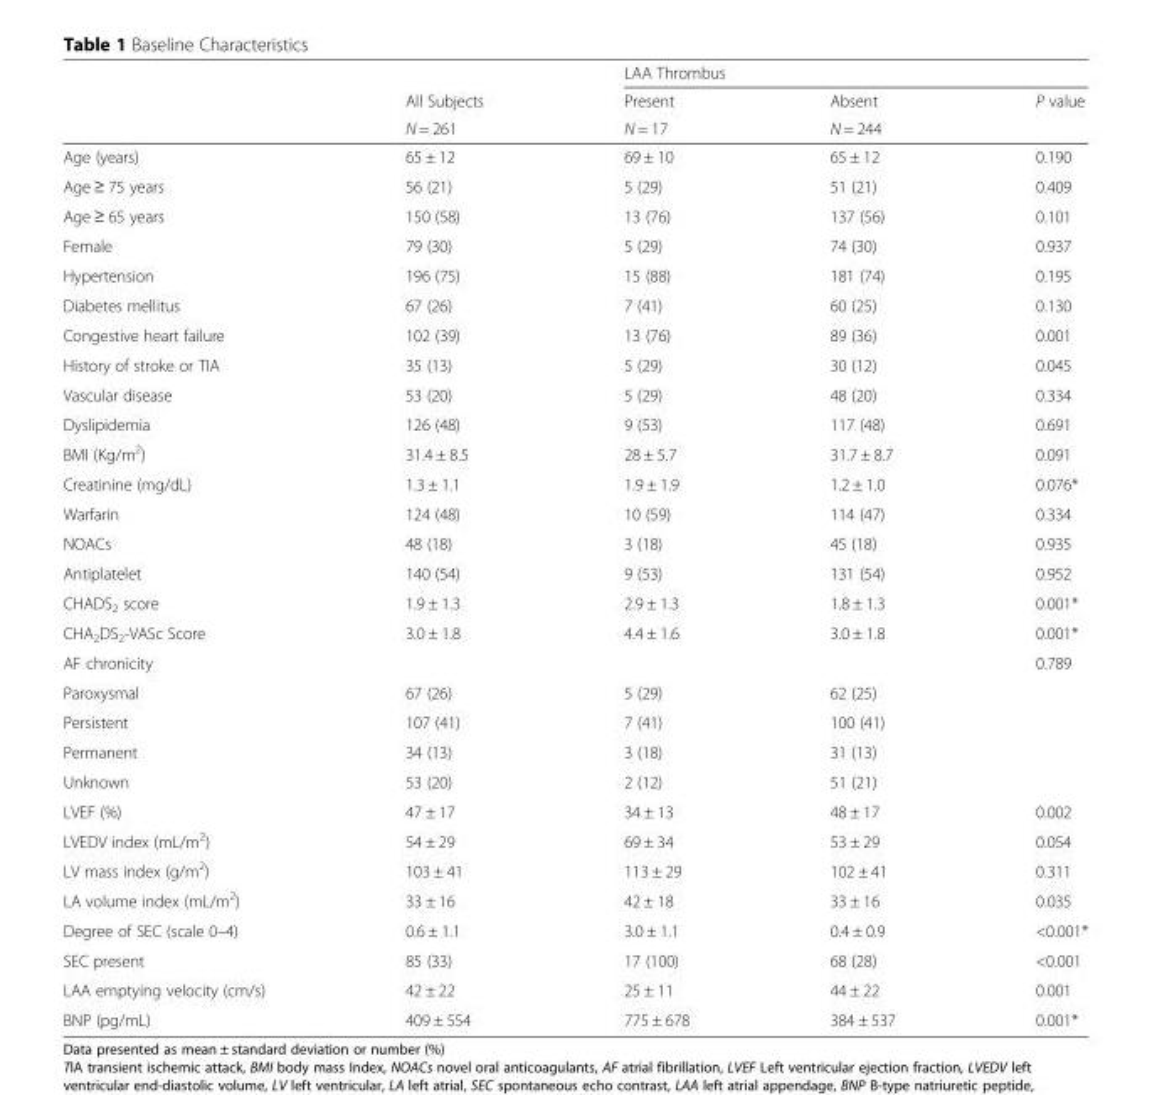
<table><thead><tr><td rowspan="3"></td><td rowspan="3">All Subjects N = 261</td><td colspan="3">LAA Thrombus</td></tr><tr><td rowspan="2">Present N = 17</td><td rowspan="2">Absent N = 244</td><td rowspan="2">P value</td></tr><tr></tr></thead><tbody><tr><td>Age (years)</td><td>65 ± 12</td><td>69 ± 10</td><td>65 ± 12</td><td>0.190</td></tr><tr><td>Age ≥ 75 years</td><td>56 (21)</td><td>5 (29)</td><td>51 (21)</td><td>0.409</td></tr><tr><td>Age ≥ 65 years</td><td>150 (58)</td><td>13 (76)</td><td>137 (56)</td><td>0.101</td></tr><tr><td>Female</td><td>79 (30)</td><td>5 (29)</td><td>74 (30)</td><td>0.937</td></tr><tr><td>Hypertension</td><td>196 (75)</td><td>15 (88)</td><td>181 (74)</td><td>0.195</td></tr><tr><td>Diabetes mellitus</td><td>67 (26)</td><td>7 (41)</td><td>60 (25)</td><td>0.130</td></tr><tr><td>Congestive heart failure</td><td>102 (39)</td><td>13 (76)</td><td>89 (36)</td><td>0.001</td></tr><tr><td>History of stroke or TIA</td><td>35 (13)</td><td>5 (29)</td><td>30 (12)</td><td>0.045</td></tr><tr><td>Vascular disease</td><td>53 (20)</td><td>5 (29)</td><td>48 (20)</td><td>0.334</td></tr><tr><td>Dyslipidemia</td><td>126 (48)</td><td>9 (53)</td><td>117 (48)</td><td>0.691</td></tr><tr><td>BMI (Kg/m<sup>2</sup>)</td><td>31.4 ± 8.5</td><td>28 ± 5.7</td><td>31.7 ± 8.7</td><td>0.091</td></tr><tr><td>Creatinine (mg/dL)</td><td>1.3 ± 1.1</td><td>1.9 ± 1.9</td><td>1.2 ± 1.0</td><td>0.076*</td></tr><tr><td>Warfarin</td><td>124 (48)</td><td>10 (59)</td><td>114 (47)</td><td>0.334</td></tr><tr><td>NOACs</td><td>48 (18)</td><td>3 (18)</td><td>45 (18)</td><td>0.935</td></tr><tr><td>Antiplatelet</td><td>140 (54)</td><td>9 (53)</td><td>131 (54)</td><td>0.952</td></tr><tr><td>CHADS<sub>2</sub> score</td><td>1.9 ± 1.3</td><td>2.9 ± 1.3</td><td>1.8 ± 1.3</td><td>0.001*</td></tr><tr><td>CHA<sub>2</sub>DS<sub>2</sub>-VASc Score</td><td>3.0 ± 1.8</td><td>4.4 ± 1.6</td><td>3.0 ± 1.8</td><td>0.001*</td></tr><tr><td>AF chronicity</td><td></td><td></td><td></td><td>0.789</td></tr><tr><td>Paroxysmal</td><td>67 (26)</td><td>5 (29)</td><td>62 (25)</td><td></td></tr><tr><td>Persistent</td><td>107 (41)</td><td>7 (41)</td><td>100 (41)</td><td></td></tr><tr><td>Permanent</td><td>34 (13)</td><td>3 (18)</td><td>31 (13)</td><td></td></tr><tr><td>Unknown</td><td>53 (20)</td><td>2 (12)</td><td>51 (21)</td><td></td></tr><tr><td>LVEF (%)</td><td>47 ± 17</td><td>34 ± 13</td><td>48 ± 17</td><td>0.002</td></tr><tr><td>LVEDV index (mL/m<sup>2</sup>)</td><td>54 ± 29</td><td>69 ± 34</td><td>53 ± 29</td><td>0.054</td></tr><tr><td>LV mass index (g/m<sup>2</sup>)</td><td>103 ± 41</td><td>113 ± 29</td><td>102 ± 41</td><td>0.311</td></tr><tr><td>LA volume index (mL/m<sup>2</sup>)</td><td>33 ± 16</td><td>42 ± 18</td><td>33 ± 16</td><td>0.035</td></tr><tr><td>Degree of SEC (scale 0–4)</td><td>0.6 ± 1.1</td><td>3.0 ± 1.1</td><td>0.4 ± 0.9</td><td>&lt;0.001*</td></tr><tr><td>SEC present</td><td>85 (33)</td><td>17 (100)</td><td>68 (28)</td><td>&lt;0.001</td></tr><tr><td>LAA emptying velocity (cm/s)</td><td>42 ± 22</td><td>25 ± 11</td><td>44 ± 22</td><td>0.001</td></tr><tr><td>BNP (pg/mL)</td><td>409 ± 554</td><td>775 ± 678</td><td>384 ± 537</td><td>0.001*</td></tr></tbody></table>